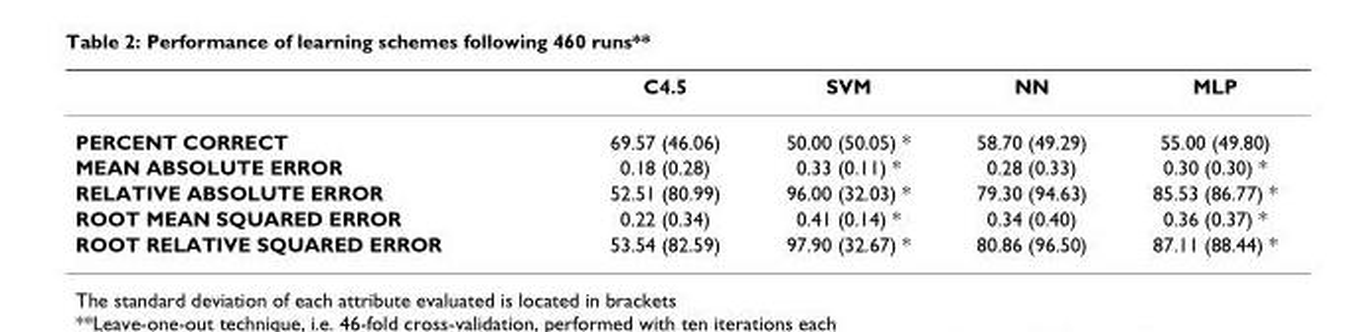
<table><thead><tr><td></td><td>C4.5</td><td>SVM</td><td>NN</td><td>MLP</td></tr></thead><tbody><tr><td>PERCENT CORRECT</td><td>69.57 (46.06)</td><td>50.00 (50.05) *</td><td>58.70 (49.29)</td><td>55.00 (49.80)</td></tr><tr><td>MEAN ABSOLUTE ERROR</td><td>0.18 (0.28)</td><td>0.33 (0.11) *</td><td>0.28 (0.33)</td><td>0.30 (0.30) *</td></tr><tr><td>RELATIVE ABSOLUTE ERROR</td><td>52.51 (80.99)</td><td>96.00 (32.03) *</td><td>79.30 (94.63)</td><td>85.53 (86.77) *</td></tr><tr><td>ROOT MEAN SQUARED ERROR</td><td>0.22 (0.34)</td><td>0.41 (0.14) *</td><td>0.34 (0.40)</td><td>0.36 (0.37) *</td></tr><tr><td>ROOT RELATIVE SQUARED ERROR</td><td>53.54 (82.59)</td><td>97.90 (32.67) *</td><td>80.86 (96.50)</td><td>87.11 (88.44) *</td></tr></tbody></table>